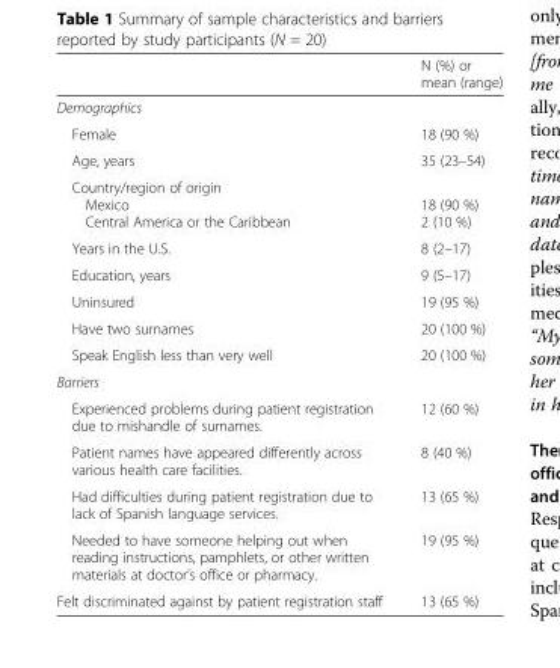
<table><thead><tr><td></td><td>N (%) or mean (range)</td></tr></thead><tbody><tr><td colspan="2">Demographics</td></tr><tr><td>Female</td><td>18 (90 %)</td></tr><tr><td>Age, years</td><td>35 (23–54)</td></tr><tr><td>Country/region of origin Mexico Central America or the Caribbean</td><td>18 (90 %) 2 (10 %)</td></tr><tr><td>Years in the U.S.</td><td>8 (2–17)</td></tr><tr><td>Education, years</td><td>9 (5–17)</td></tr><tr><td>Uninsured</td><td>19 (95 %)</td></tr><tr><td>Have two surnames</td><td>20 (100 %)</td></tr><tr><td>Speak English less than very well</td><td>20 (100 %)</td></tr><tr><td colspan="2">Barriers</td></tr><tr><td>Experienced problems during patient registration due to mishandle of surnames.</td><td>12 (60 %)</td></tr><tr><td>Patient names have appeared differently across various health care facilities.</td><td>8 (40 %)</td></tr><tr><td>Had difficulties during patient registration due to lack of Spanish language services.</td><td>13 (65 %)</td></tr><tr><td>Needed to have someone helping out when reading instructions, pamphlets, or other written materials at doctor’s office or pharmacy.</td><td>19 (95 %)</td></tr><tr><td>Felt discriminated against by patient registration staff</td><td>13 (65 %)</td></tr></tbody></table>